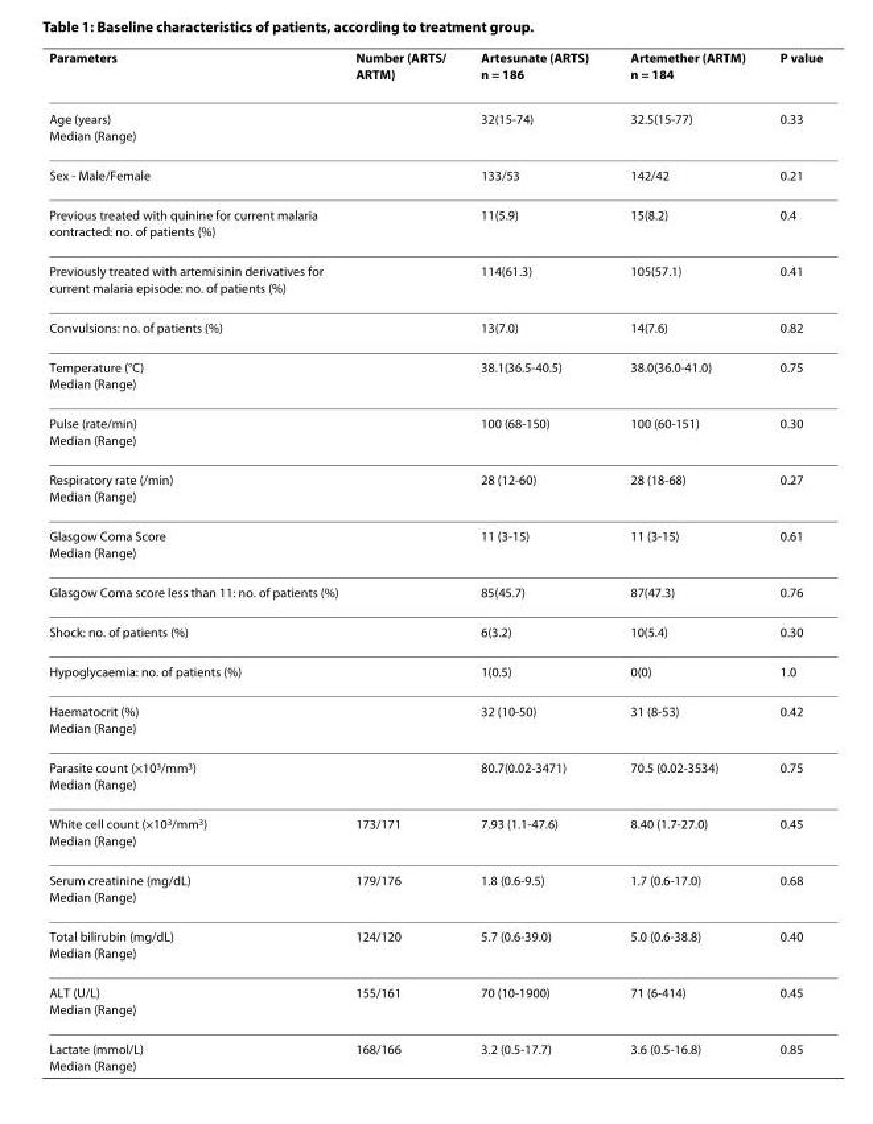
<table><thead><tr><td>Parameters</td><td>Number (ARTS/ ARTM)</td><td>Artesunate (ARTS) n = 186</td><td>Artemether (ARTM) n = 184</td><td>P value</td></tr></thead><tbody><tr><td>Age (years) Median (Range)</td><td></td><td>32(15-74)</td><td>32.5(15-77)</td><td>0.33</td></tr><tr><td>Sex - Male/Female</td><td></td><td>133/53</td><td>142/42</td><td>0.21</td></tr><tr><td>Previous treated with quinine for current malaria contracted: no. of patients (%)</td><td></td><td>11(5.9)</td><td>15(8.2)</td><td>0.4</td></tr><tr><td>Previously treated with artemisinin derivatives for current malaria episode: no. of patients (%)</td><td></td><td>114(61.3)</td><td>105(57.1)</td><td>0.41</td></tr><tr><td>Convulsions: no. of patients (%)</td><td></td><td>13(7.0)</td><td>14(7.6)</td><td>0.82</td></tr><tr><td>Temperature (°C) Median (Range)</td><td></td><td>38.1(36.5-40.5)</td><td>38.0(36.0-41.0)</td><td>0.75</td></tr><tr><td>Pulse (rate/min) Median (Range)</td><td></td><td>100 (68-150)</td><td>100 (60-151)</td><td>0.30</td></tr><tr><td>Respiratory rate (/min) Median (Range)</td><td></td><td>28 (12-60)</td><td>28 (18-68)</td><td>0.27</td></tr><tr><td>Glasgow Coma Score Median (Range)</td><td></td><td>11 (3-15)</td><td>11 (3-15)</td><td>0.61</td></tr><tr><td>Glasgow Coma score less than 11: no. of patients (%)</td><td></td><td>85(45.7)</td><td>87(47.3)</td><td>0.76</td></tr><tr><td>Shock: no. of patients (%)</td><td></td><td>6(3.2)</td><td>10(5.4)</td><td>0.30</td></tr><tr><td>Hypoglycaemia: no. of patients (%)</td><td></td><td>1(0.5)</td><td>0(0)</td><td>1.0</td></tr><tr><td>Haematocrit (%) Median (Range)</td><td></td><td>32 (10-50)</td><td>31 (8-53)</td><td>0.42</td></tr><tr><td>Parasite count (×10<sup>3</sup>/mm<sup>3</sup>) Median (Range)</td><td></td><td>80.7(0.02-3471)</td><td>70.5 (0.02-3534)</td><td>0.75</td></tr><tr><td>White cell count (×10<sup>3</sup>/mm<sup>3</sup>) Median (Range)</td><td>173/171</td><td>7.93 (1.1-47.6)</td><td>8.40 (1.7-27.0)</td><td>0.45</td></tr><tr><td>Serum creatinine (mg/dL) Median (Range)</td><td>179/176</td><td>1.8 (0.6-9.5)</td><td>1.7 (0.6-17.0)</td><td>0.68</td></tr><tr><td>Total bilirubin (mg/dL) Median (Range)</td><td>124/120</td><td>5.7 (0.6-39.0)</td><td>5.0 (0.6-38.8)</td><td>0.40</td></tr><tr><td>ALT (U/L) Median (Range)</td><td>155/161</td><td>70 (10-1900)</td><td>71 (6-414)</td><td>0.45</td></tr><tr><td>Lactate (mmol/L) Median (Range)</td><td>168/166</td><td>3.2 (0.5-17.7)</td><td>3.6 (0.5-16.8)</td><td>0.85</td></tr></tbody></table>